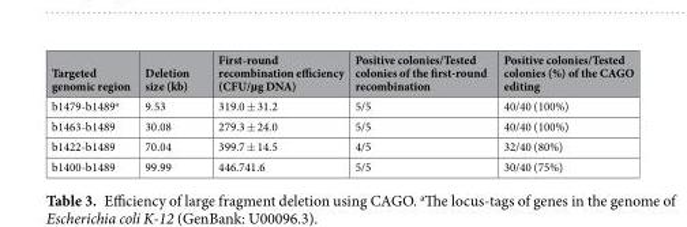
<table><thead><tr><td>Targeted genomic region</td><td>Deletion size (kb)</td><td>First-round recombination efficiency (CFU/µg DNA)</td><td>Positive colonies/Tested colonies of the first-round recombination</td><td>Positive colonies/Tested colonies (%) of the CAGO editing</td></tr></thead><tbody><tr><td>b1479-b1489<sup>a</sup></td><td>9.53</td><td>319.0 ± 31.2</td><td>5/5</td><td>40/40 (100%)</td></tr><tr><td>b1463-b1489</td><td>30.08</td><td>279.3 ± 24.0</td><td>5/5</td><td>40/40 (100%)</td></tr><tr><td>b1422-b1489</td><td>70.04</td><td>399.7 ± 14.5</td><td>4/5</td><td>32/40 (80%)</td></tr><tr><td>b1400-b1489</td><td>99.99</td><td>446.741.6</td><td>5/5</td><td>30/40 (75%)</td></tr></tbody></table>